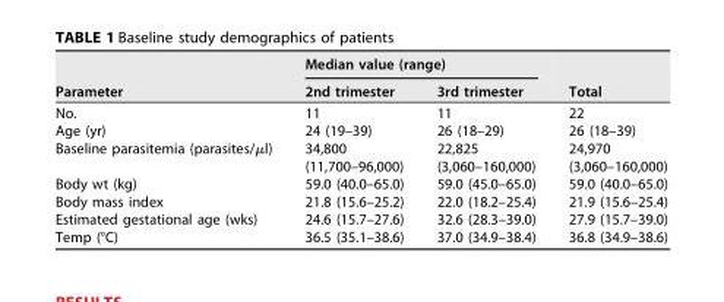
<table><thead><tr><td rowspan="2">Parameter</td><td colspan="2">Median value (range)</td><td rowspan="2">Total</td></tr><tr><td>2nd trimester</td><td>3rd trimester</td></tr></thead><tbody><tr><td>No.</td><td>11</td><td>11</td><td>22</td></tr><tr><td>Age (yr)</td><td>24 (19–39)</td><td>26 (18–29)</td><td>26 (18–39)</td></tr><tr><td rowspan="2">Baseline parasitemia (parasites/μl)</td><td>34,800</td><td>22,825</td><td>24,970</td></tr><tr><td>(11,700–96,000)</td><td>(3,060–160,000)</td><td>(3,060–160,000)</td></tr><tr><td>Body wt (kg)</td><td>59.0 (40.0–65.0)</td><td>59.0 (45.0–65.0)</td><td>59.0 (40.0–65.0)</td></tr><tr><td>Body mass index</td><td>21.8 (15.6–25.2)</td><td>22.0 (18.2–25.4)</td><td>21.9 (15.6–25.4)</td></tr><tr><td>Estimated gestational age (wks)</td><td>24.6 (15.7–27.6)</td><td>32.6 (28.3–39.0)</td><td>27.9 (15.7–39.0)</td></tr><tr><td>Temp (°C)</td><td>36.5 (35.1–38.6)</td><td>37.0 (34.9–38.4)</td><td>36.8 (34.9–38.6)</td></tr></tbody></table>